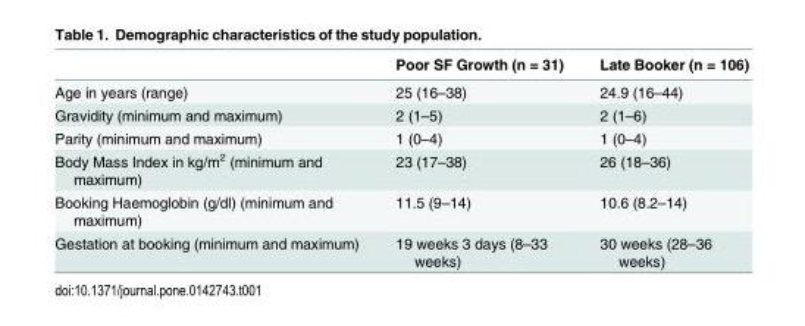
<table><thead><tr><td></td><td>Poor SF Growth (n = 31)</td><td>Late Booker (n = 106)</td></tr></thead><tbody><tr><td>Age in years (range)</td><td>25 (16–38)</td><td>24.9 (16–44)</td></tr><tr><td>Gravidity (minimum and maximum)</td><td>2 (1–5)</td><td>2 (1–6)</td></tr><tr><td>Parity (minimum and maximum)</td><td>1 (0–4)</td><td>1 (0–4)</td></tr><tr><td>Body Mass Index in kg/m<sup>2</sup> (minimum and maximum)</td><td>23 (17–38)</td><td>26 (18–36)</td></tr><tr><td>Booking Haemoglobin (g/dl) (minimum and maximum)</td><td>11.5 (9–14)</td><td>10.6 (8.2–14)</td></tr><tr><td>Gestation at booking (minimum and maximum)</td><td>19 weeks 3 days (8–33 weeks)</td><td>30 weeks (28–36 weeks)</td></tr></tbody></table>